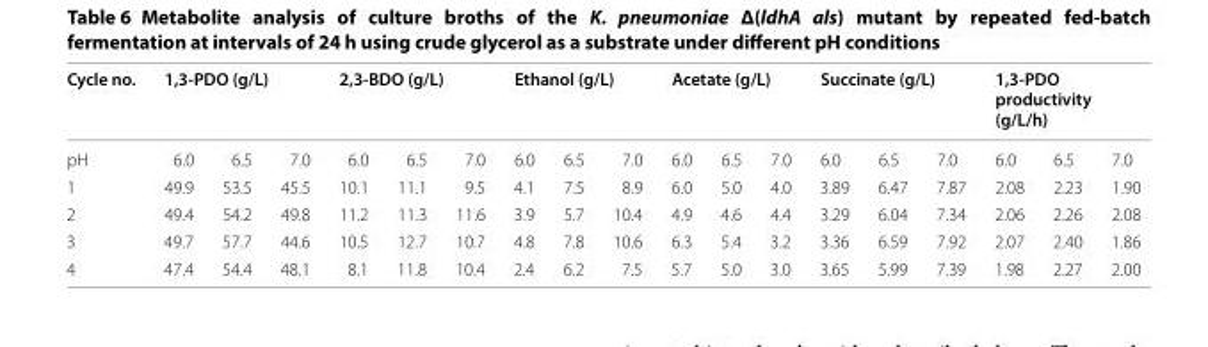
<table><thead><tr><td rowspan="2">Cycle no. pH</td><td colspan="3">1,3‑PDO (g/L)</td><td colspan="3">2,3‑BDO (g/L)</td><td colspan="3">Ethanol (g/L)</td><td colspan="3">Acetate (g/L)</td><td colspan="3">Succinate (g/L)</td><td colspan="3">1,3‑PDO productivity (g/L/h)</td></tr><tr><td>6.0</td><td>6.5</td><td>7.0</td><td>6.0</td><td>6.5</td><td>7.0</td><td>6.0</td><td>6.5</td><td>7.0</td><td>6.0</td><td>6.5</td><td>7.0</td><td>6.0</td><td>6.5</td><td>7.0</td><td>6.0</td><td>6.5</td><td>7.0</td></tr></thead><tbody><tr><td>1</td><td>49.9</td><td>53.5</td><td>45.5</td><td>10.1</td><td>11.1</td><td>9.5</td><td>4.1</td><td>7.5</td><td>8.9</td><td>6.0</td><td>5.0</td><td>4.0</td><td>3.89</td><td>6.47</td><td>7.87</td><td>2.08</td><td>2.23</td><td>1.90</td></tr><tr><td>2</td><td>49.4</td><td>54.2</td><td>49.8</td><td>11.2</td><td>11.3</td><td>11.6</td><td>3.9</td><td>5.7</td><td>10.4</td><td>4.9</td><td>4.6</td><td>4.4</td><td>3.29</td><td>6.04</td><td>7.34</td><td>2.06</td><td>2.26</td><td>2.08</td></tr><tr><td>3</td><td>49.7</td><td>57.7</td><td>44.6</td><td>10.5</td><td>12.7</td><td>10.7</td><td>4.8</td><td>7.8</td><td>10.6</td><td>6.3</td><td>5.4</td><td>3.2</td><td>3.36</td><td>6.59</td><td>7.92</td><td>2.07</td><td>2.40</td><td>1.86</td></tr><tr><td>4</td><td>47.4</td><td>54.4</td><td>48.1</td><td>8.1</td><td>11.8</td><td>10.4</td><td>2.4</td><td>6.2</td><td>7.5</td><td>5.7</td><td>5.0</td><td>3.0</td><td>3.65</td><td>5.99</td><td>7.39</td><td>1.98</td><td>2.27</td><td>2.00</td></tr></tbody></table>